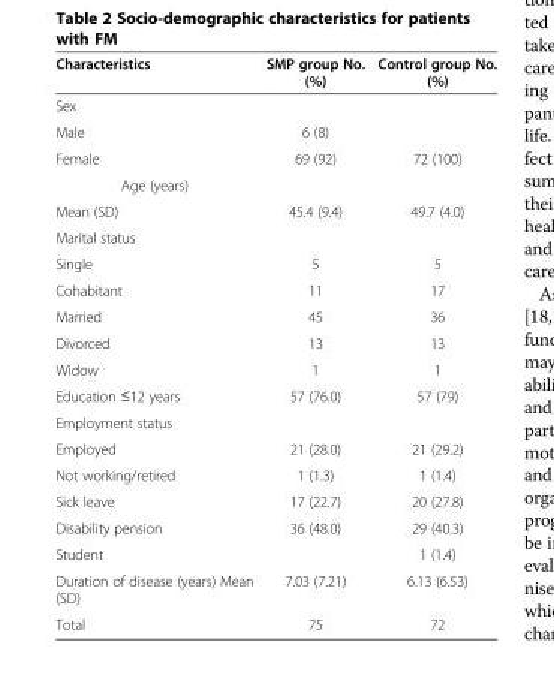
<table><thead><tr><td>Characteristics</td><td>SMP group No. (%)</td><td>Control group No. (%)</td></tr></thead><tbody><tr><td colspan="3">Sex</td></tr><tr><td>Male</td><td>6 (8)</td><td></td></tr><tr><td>Female</td><td>69 (92)</td><td>72 (100)</td></tr><tr><td colspan="3">Age (years)</td></tr><tr><td>Mean (SD)</td><td>45.4 (9.4)</td><td>49.7 (4.0)</td></tr><tr><td colspan="3">Marital status</td></tr><tr><td>Single</td><td>5</td><td>5</td></tr><tr><td>Cohabitant</td><td>11</td><td>17</td></tr><tr><td>Married</td><td>45</td><td>36</td></tr><tr><td>Divorced</td><td>13</td><td>13</td></tr><tr><td>Widow</td><td>1</td><td>1</td></tr><tr><td>Education ≤12 years</td><td>57 (76.0)</td><td>57 (79)</td></tr><tr><td colspan="3">Employment status</td></tr><tr><td>Employed</td><td>21 (28.0)</td><td>21 (29.2)</td></tr><tr><td>Not working/retired</td><td>1 (1.3)</td><td>1 (1.4)</td></tr><tr><td>Sick leave</td><td>17 (22.7)</td><td>20 (27.8)</td></tr><tr><td>Disability pension</td><td>36 (48.0)</td><td>29 (40.3)</td></tr><tr><td>Student</td><td></td><td>1 (1.4)</td></tr><tr><td>Duration of disease (years) Mean (SD)</td><td>7.03 (7.21)</td><td>6.13 (6.53)</td></tr><tr><td>Total</td><td>75</td><td>72</td></tr></tbody></table>